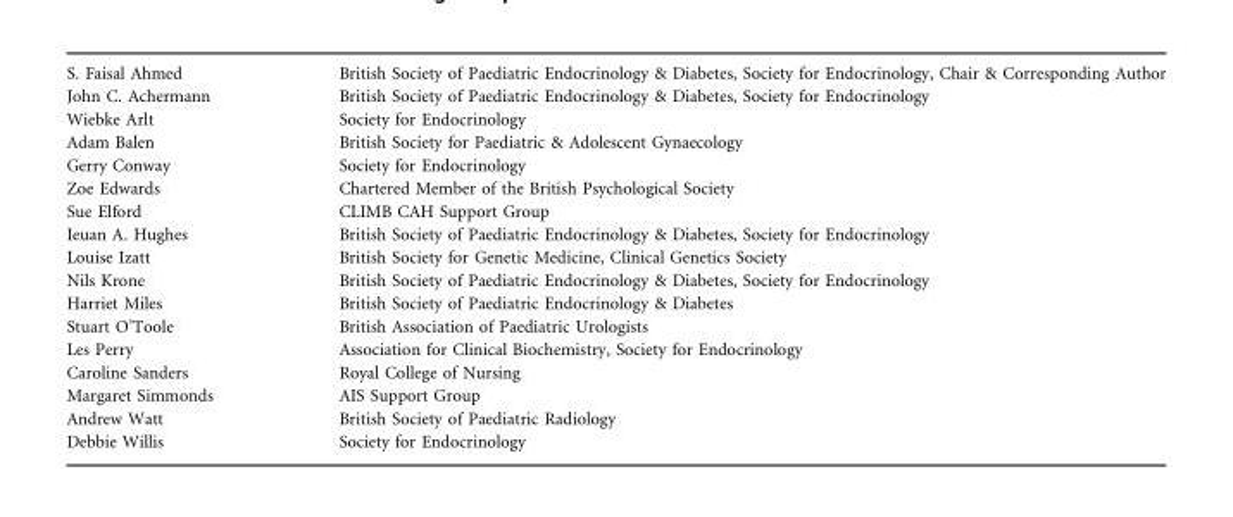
<table><tbody><tr><td>S. Faisal Ahmed</td><td>British Society of Paediatric Endocrinology &amp; Diabetes, Society for Endocrinology, Chair &amp; Corresponding Author</td></tr><tr><td>John C. Achermann</td><td>British Society of Paediatric Endocrinology &amp; Diabetes, Society for Endocrinology</td></tr><tr><td>Wiebke Arlt</td><td>Society for Endocrinology</td></tr><tr><td>Adam Balen</td><td>British Society for Paediatric &amp; Adolescent Gynaecology</td></tr><tr><td>Gerry Conway</td><td>Society for Endocrinology</td></tr><tr><td>Zoe Edwards</td><td>Chartered Member of the British Psychological Society</td></tr><tr><td>Sue Elford</td><td>CLIMB CAH Support Group</td></tr><tr><td>Ieuan A. Hughes</td><td>British Society of Paediatric Endocrinology &amp; Diabetes, Society for Endocrinology</td></tr><tr><td>Louise Izatt</td><td>British Society for Genetic Medicine, Clinical Genetics Society</td></tr><tr><td>Nils Krone</td><td>British Society of Paediatric Endocrinology &amp; Diabetes, Society for Endocrinology</td></tr><tr><td>Harriet Miles</td><td>British Society of Paediatric Endocrinology &amp; Diabetes</td></tr><tr><td>Stuart O’Toole</td><td>British Association of Paediatric Urologists</td></tr><tr><td>Les Perry</td><td>Association for Clinical Biochemistry, Society for Endocrinology</td></tr><tr><td>Caroline Sanders</td><td>Royal College of Nursing</td></tr><tr><td>Margaret Simmonds</td><td>AIS Support Group</td></tr><tr><td>Andrew Watt</td><td>British Society of Paediatric Radiology</td></tr><tr><td>Debbie Willis</td><td>Society for Endocrinology</td></tr></tbody></table>